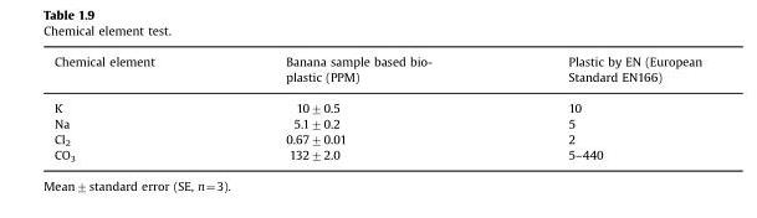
<table><thead><tr><td>Chemical element</td><td>Banana sample based bio- plastic (PPM)</td><td>Plastic by EN (European Standard EN166)</td></tr></thead><tbody><tr><td>K</td><td>10±0.5</td><td>10</td></tr><tr><td>Na</td><td>5.1±0.2</td><td>5</td></tr><tr><td>Cl<sub>2</sub></td><td>0.67±0.01</td><td>2</td></tr><tr><td>CO<sub>3</sub></td><td>132±2.0</td><td>5–440</td></tr></tbody></table>